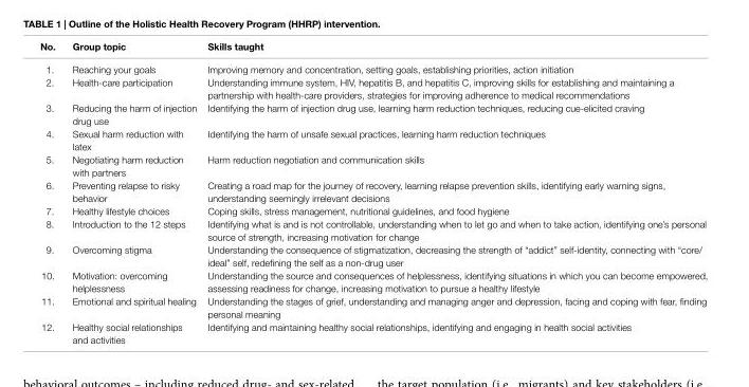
<table><thead><tr><td>no.</td><td>group topic</td><td>skills taught</td></tr></thead><tbody><tr><td>1.</td><td>Reaching your goals</td><td>Improving memory and concentration, setting goals, establishing priorities, action initiation</td></tr><tr><td>2.</td><td>Health-care participation</td><td>Understanding immune system, HIV, hepatitis B, and hepatitis C, improving skills for establishing and maintaining a partnership with health-care providers, strategies for improving adherence to medical recommendations</td></tr><tr><td>3.</td><td>Reducing the harm of injection drug use</td><td>Identifying the harm of injection drug use, learning harm reduction techniques, reducing cue-elicited craving</td></tr><tr><td>4.</td><td>Sexual harm reduction with latex</td><td>Identifying the harm of unsafe sexual practices, learning harm reduction techniques</td></tr><tr><td>5.</td><td>Negotiating harm reduction with partners</td><td>Harm reduction negotiation and communication skills</td></tr><tr><td>6.</td><td>Preventing relapse to risky behavior</td><td>Creating a road map for the journey of recovery, learning relapse prevention skills, identifying early warning signs, understanding seemingly irrelevant decisions</td></tr><tr><td>7.</td><td>Healthy lifestyle choices</td><td>Coping skills, stress management, nutritional guidelines, and food hygiene</td></tr><tr><td>8.</td><td>Introduction to the 12 steps</td><td>Identifying what is and is not controllable, understanding when to let go and when to take action, identifying one’s personal source of strength, increasing motivation for change</td></tr><tr><td>9.</td><td>Overcoming stigma</td><td>Understanding the consequence of stigmatization, decreasing the strength of “addict” self-identity, connecting with “core/ ideal” self, redefining the self as a non-drug user</td></tr><tr><td>10.</td><td>Motivation: overcoming helplessness</td><td>Understanding the source and consequences of helplessness, identifying situations in which you can become empowered, assessing readiness for change, increasing motivation to pursue a healthy lifestyle</td></tr><tr><td>11.</td><td>Emotional and spiritual healing</td><td>Understanding the stages of grief, understanding and managing anger and depression, facing and coping with fear, finding personal meaning</td></tr><tr><td>12.</td><td>Healthy social relationships and activities</td><td>Identifying and maintaining healthy social relationships, identifying and engaging in health social activities</td></tr></tbody></table>